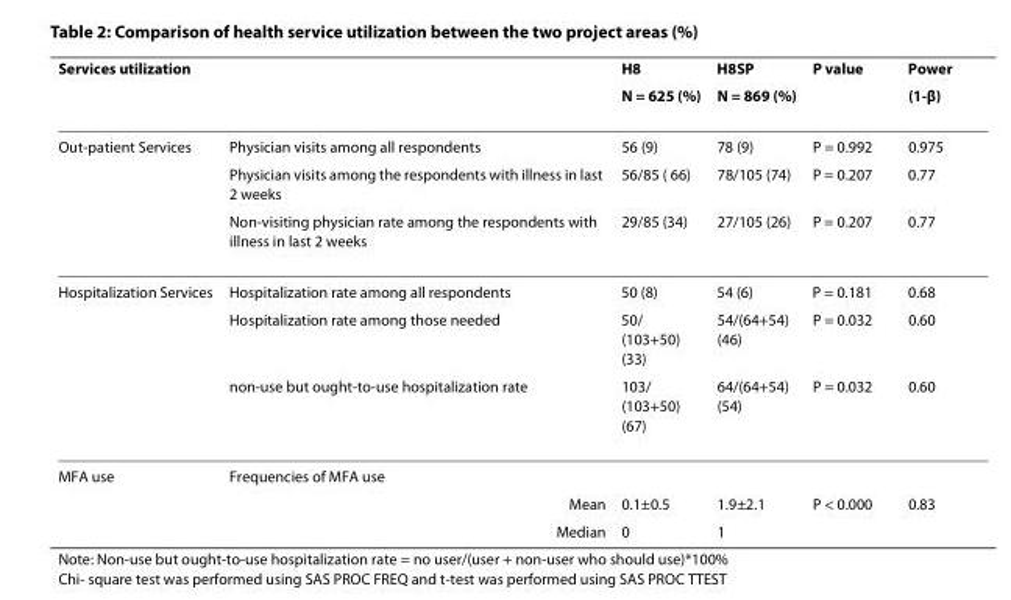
<table><thead><tr><td colspan="2">Services utilization</td><td rowspan="2">H8 N = 625 (%)</td><td rowspan="2">H8SP N = 869 (%)</td><td rowspan="2">P value</td><td rowspan="2">Power (1-β)</td></tr><tr><td></td><td></td></tr></thead><tbody><tr><td rowspan="3">Out-patient Services</td><td>Physician visits among all respondents</td><td>56 (9)</td><td>78 (9)</td><td>P = 0.992</td><td>0.975</td></tr><tr><td>Physician visits among the respondents with illness in last 2 weeks</td><td>56/85 ( 66)</td><td>78/105 (74)</td><td>P = 0.207</td><td>0.77</td></tr><tr><td>Non-visiting physician rate among the respondents with illness in last 2 weeks</td><td>29/85 (34)</td><td>27/105 (26)</td><td>P = 0.207</td><td>0.77</td></tr><tr><td rowspan="3">Hospitalization Services</td><td>Hospitalization rate among all respondents</td><td>50 (8)</td><td>54 (6)</td><td>P = 0.181</td><td>0.68</td></tr><tr><td>Hospitalization rate among those needed</td><td>50/ (103+50) (33)</td><td>54/(64+54) (46)</td><td>P = 0.032</td><td>0.60</td></tr><tr><td>non-use but ought-to-use hospitalization rate</td><td>103/ (103+50) (67)</td><td>64/(64+54) (54)</td><td>P = 0.032</td><td>0.60</td></tr><tr><td rowspan="3">MFA use</td><td>Frequencies of MFA use</td><td></td><td></td><td></td><td></td></tr><tr><td>Mean</td><td>0.1±0.5</td><td>1.9±2.1</td><td>P &lt; 0.000</td><td>0.83</td></tr><tr><td>Median</td><td>0</td><td>1</td><td></td><td></td></tr></tbody></table>